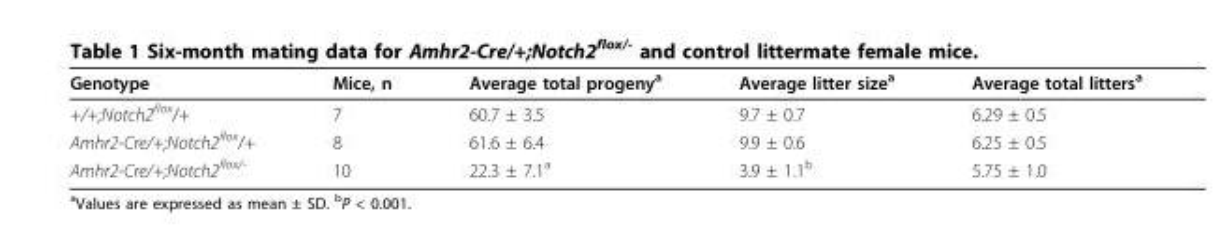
<table><thead><tr><td>Genotype</td><td>Mice, n</td><td>Average total progeny<sup>a</sup></td><td>Average litter size<sup>a</sup></td><td>Average total litters<sup>a</sup></td></tr></thead><tbody><tr><td>+/+;Notch2<sup>flox</sup>/+</td><td>7</td><td>60.7 ± 3.5</td><td>9.7 ± 0.7</td><td>6.29 ± 0.5</td></tr><tr><td>Amhr2-Cre/+;Notch2<sup>flox</sup>/+</td><td>8</td><td>61.6 ± 6.4</td><td>9.9 ± 0.6</td><td>6.25 ± 0.5</td></tr><tr><td>Amhr2-Cre/+;Notch2<sup>flox/-</sup></td><td>10</td><td>22.3 ± 7.1<sup>a</sup></td><td>3.9 ± 1.1<sup>b</sup></td><td>5.75 ± 1.0</td></tr></tbody></table>